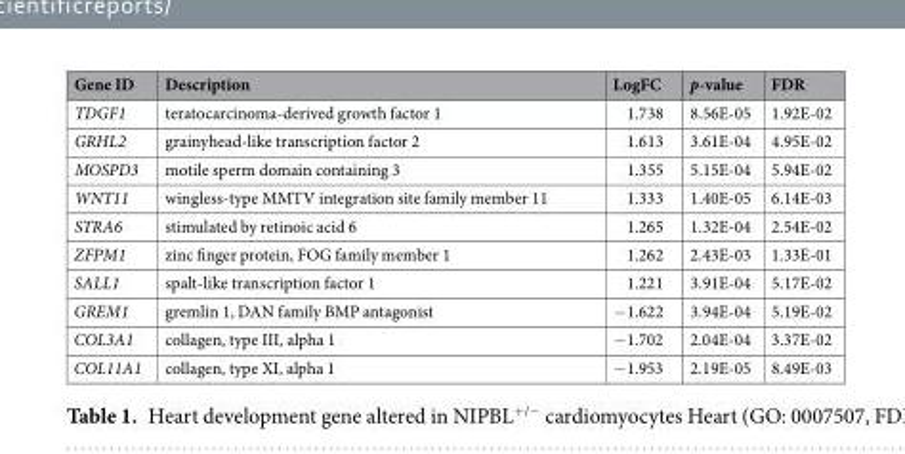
<table><thead><tr><td>Gene ID</td><td>Description</td><td>LogFC</td><td>p-value</td><td>FDR</td></tr></thead><tbody><tr><td>TDGF1</td><td>teratocarcinoma-derived growth factor 1</td><td>1.738</td><td>8.56E-05</td><td>1.92E-02</td></tr><tr><td>GRHL2</td><td>grainyhead-like transcription factor 2</td><td>1.613</td><td>3.61E-04</td><td>4.95E-02</td></tr><tr><td>MOSPD3</td><td>motile sperm domain containing 3</td><td>1.355</td><td>5.15E-04</td><td>5.94E-02</td></tr><tr><td>WNT11</td><td>wingless-type MMTV integration site family member 11</td><td>1.333</td><td>1.40E-05</td><td>6.14E-03</td></tr><tr><td>STRA6</td><td>stimulated by retinoic acid 6</td><td>1.265</td><td>1.32E-04</td><td>2.54E-02</td></tr><tr><td>ZFPM1</td><td>zinc finger protein, FOG family member 1</td><td>1.262</td><td>2.43E-03</td><td>1.33E-01</td></tr><tr><td>SALL1</td><td>spalt-like transcription factor 1</td><td>1.221</td><td>3.91E-04</td><td>5.17E-02</td></tr><tr><td>GREM1</td><td>gremlin 1, DAN family BMP antagonist</td><td>−1.622</td><td>3.94E-04</td><td>5.19E-02</td></tr><tr><td>COL3A1</td><td>collagen, type III, alpha 1</td><td>−1.702</td><td>2.04E-04</td><td>3.37E-02</td></tr><tr><td>COL11A1</td><td>collagen, type XI, alpha 1</td><td>−1.953</td><td>2.19E-05</td><td>8.49E-03</td></tr></tbody></table>